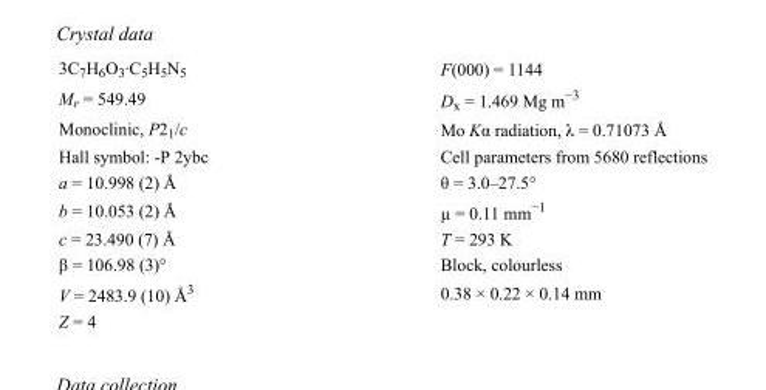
<table><tbody><tr><td>3C<sub>7</sub>H<sub>6</sub>O<sub>3</sub>·C<sub>5</sub>H<sub>5</sub>N<sub>5</sub></td><td>F(000) = 1144</td></tr><tr><td>M<sub>r</sub> = 549.49</td><td>D<sub>x</sub> = 1.469 Mg m<sup>−3</sup></td></tr><tr><td>Monoclinic, P2<sub>1</sub>/c</td><td>Mo Kα radiation, λ = 0.71073 Å</td></tr><tr><td>Hall symbol: -P 2ybc</td><td>Cell parameters from 5680 reflections</td></tr><tr><td>a = 10.998 (2) Å</td><td>θ = 3.0–27.5°</td></tr><tr><td>b = 10.053 (2) Å</td><td>µ = 0.11 mm<sup>−1</sup></td></tr><tr><td>c = 23.490 (7) Å</td><td>T = 293 K</td></tr><tr><td>β = 106.98 (3)°</td><td>Block, colourless</td></tr><tr><td>V = 2483.9 (10) Å<sup>3</sup></td><td>0.38 × 0.22 × 0.14 mm</td></tr><tr><td>Z = 4</td><td></td></tr></tbody></table>